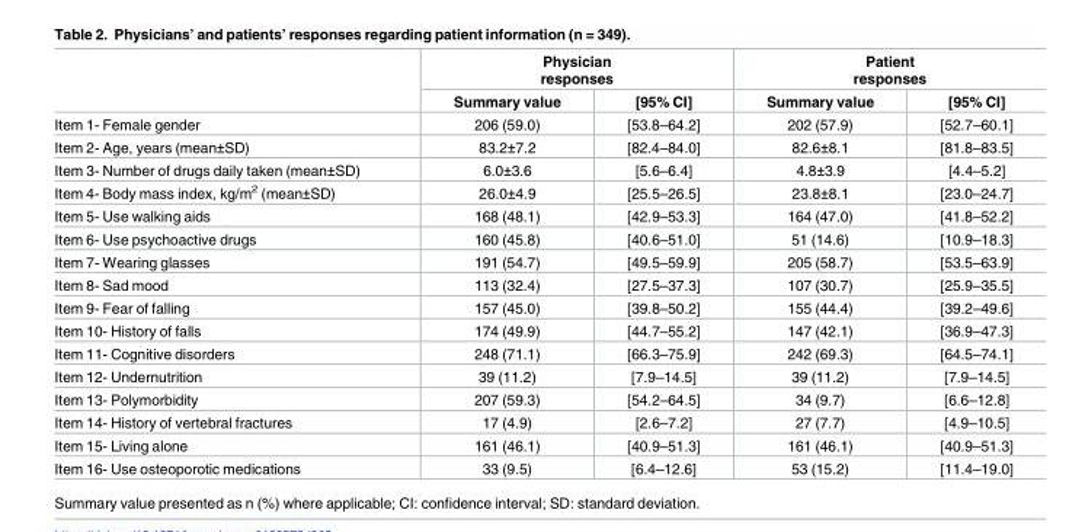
<table><thead><tr><td rowspan="2"></td><td colspan="2">Physician responses</td><td colspan="2">Patient responses</td></tr><tr><td>Summary value</td><td>[95% CI]</td><td>Summary value</td><td>[95% CI]</td></tr></thead><tbody><tr><td>Item 1- Female gender</td><td>206 (59.0)</td><td>[53.8–64.2]</td><td>202 (57.9)</td><td>[52.7–60.1]</td></tr><tr><td>Item 2- Age, years (mean±SD)</td><td>83.2±7.2</td><td>[82.4–84.0]</td><td>82.6±8.1</td><td>[81.8–83.5]</td></tr><tr><td>Item 3- Number of drugs daily taken (mean±SD)</td><td>6.0±3.6</td><td>[5.6–6.4]</td><td>4.8±3.9</td><td>[4.4–5.2]</td></tr><tr><td>Item 4- Body mass index, kg/m<sup>2</sup> (mean±SD)</td><td>26.0±4.9</td><td>[25.5–26.5]</td><td>23.8±8.1</td><td>[23.0–24.7]</td></tr><tr><td>Item 5- Use walking aids</td><td>168 (48.1)</td><td>[42.9–53.3]</td><td>164 (47.0)</td><td>[41.8–52.2]</td></tr><tr><td>Item 6- Use psychoactive drugs</td><td>160 (45.8)</td><td>[40.6–51.0]</td><td>51 (14.6)</td><td>[10.9–18.3]</td></tr><tr><td>Item 7- Wearing glasses</td><td>191 (54.7)</td><td>[49.5–59.9]</td><td>205 (58.7)</td><td>[53.5–63.9]</td></tr><tr><td>Item 8- Sad mood</td><td>113 (32.4)</td><td>[27.5–37.3]</td><td>107 (30.7)</td><td>[25.9–35.5]</td></tr><tr><td>Item 9- Fear of falling</td><td>157 (45.0)</td><td>[39.8–50.2]</td><td>155 (44.4)</td><td>[39.2–49.6]</td></tr><tr><td>Item 10- History of falls</td><td>174 (49.9)</td><td>[44.7–55.2]</td><td>147 (42.1)</td><td>[36.9–47.3]</td></tr><tr><td>Item 11- Cognitive disorders</td><td>248 (71.1)</td><td>[66.3–75.9]</td><td>242 (69.3)</td><td>[64.5–74.1]</td></tr><tr><td>Item 12- Undernutrition</td><td>39 (11.2)</td><td>[7.9–14.5]</td><td>39 (11.2)</td><td>[7.9–14.5]</td></tr><tr><td>Item 13- Polymorbidity</td><td>207 (59.3)</td><td>[54.2–64.5]</td><td>34 (9.7)</td><td>[6.6–12.8]</td></tr><tr><td>Item 14- History of vertebral fractures</td><td>17 (4.9)</td><td>[2.6–7.2]</td><td>27 (7.7)</td><td>[4.9–10.5]</td></tr><tr><td>Item 15- Living alone</td><td>161 (46.1)</td><td>[40.9–51.3]</td><td>161 (46.1)</td><td>[40.9–51.3]</td></tr><tr><td>Item 16- Use osteoporotic medications</td><td>33 (9.5)</td><td>[6.4–12.6]</td><td>53 (15.2)</td><td>[11.4–19.0]</td></tr></tbody></table>